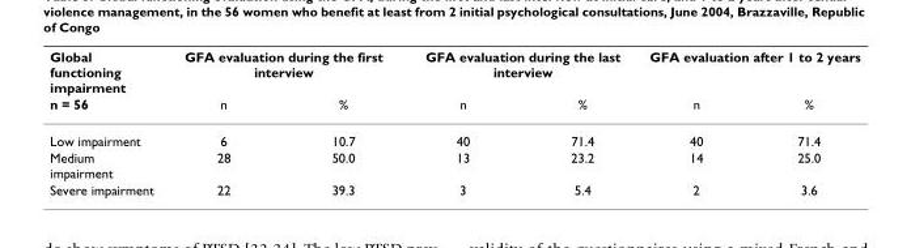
<table><thead><tr><td rowspan="2">Global functioning impairment n = 56</td><td colspan="2">GFA evaluation during the first interview</td><td colspan="2">GFA evaluation during the last interview</td><td colspan="2">GFA evaluation after 1 to 2 years</td></tr><tr><td>n</td><td>%</td><td>n</td><td>%</td><td>n</td><td>%</td></tr></thead><tbody><tr><td>Low impairment</td><td>6</td><td>10.7</td><td>40</td><td>71.4</td><td>40</td><td>71.4</td></tr><tr><td>Medium impairment</td><td>28</td><td>50.0</td><td>13</td><td>23.2</td><td>14</td><td>25.0</td></tr><tr><td>Severe impairment</td><td>22</td><td>39.3</td><td>3</td><td>5.4</td><td>2</td><td>3.6</td></tr></tbody></table>